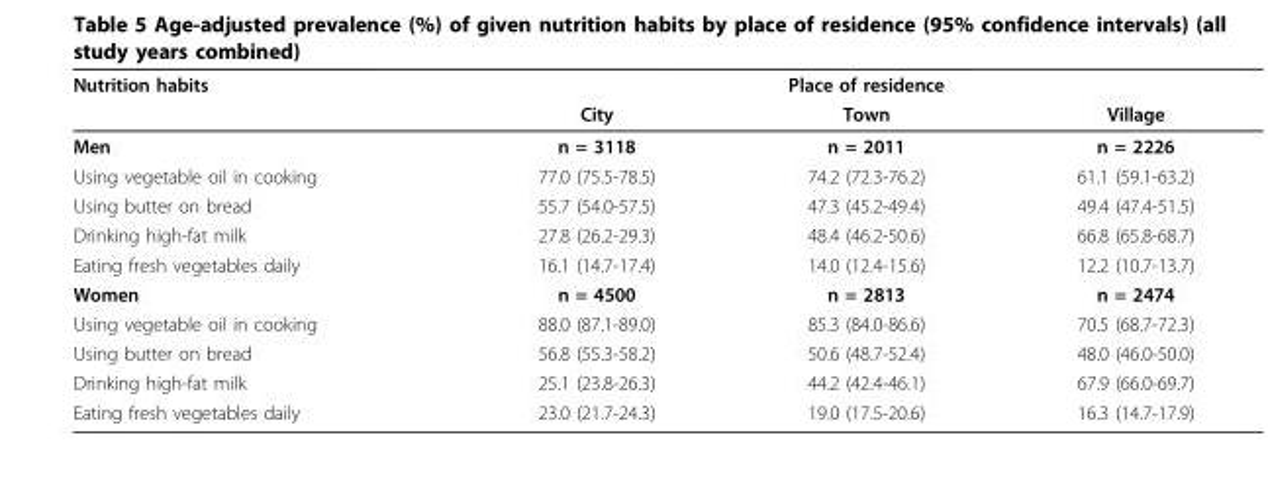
<table><thead><tr><td rowspan="2">Nutrition habits</td><td colspan="3">Place of residence</td></tr><tr><td>City</td><td>Town</td><td>Village</td></tr></thead><tbody><tr><td>Men</td><td>n = 3118</td><td>n = 2011</td><td>n = 2226</td></tr><tr><td>Using vegetable oil in cooking</td><td>77.0 (75.5-78.5)</td><td>74.2 (72.3-76.2)</td><td>61.1 (59.1-63.2)</td></tr><tr><td>Using butter on bread</td><td>55.7 (54.0-57.5)</td><td>47.3 (45.2-49.4)</td><td>49.4 (47.4-51.5)</td></tr><tr><td>Drinking high-fat milk</td><td>27.8 (26.2-29.3)</td><td>48.4 (46.2-50.6)</td><td>66.8 (65.8-68.7)</td></tr><tr><td>Eating fresh vegetables daily</td><td>16.1 (14.7-17.4)</td><td>14.0 (12.4-15.6)</td><td>12.2 (10.7-13.7)</td></tr><tr><td>Women</td><td>n = 4500</td><td>n = 2813</td><td>n = 2474</td></tr><tr><td>Using vegetable oil in cooking</td><td>88.0 (87.1-89.0)</td><td>85.3 (84.0-86.6)</td><td>70.5 (68.7-72.3)</td></tr><tr><td>Using butter on bread</td><td>56.8 (55.3-58.2)</td><td>50.6 (48.7-52.4)</td><td>48.0 (46.0-50.0)</td></tr><tr><td>Drinking high-fat milk</td><td>25.1 (23.8-26.3)</td><td>44.2 (42.4-46.1)</td><td>67.9 (66.0-69.7)</td></tr><tr><td>Eating fresh vegetables daily</td><td>23.0 (21.7-24.3)</td><td>19.0 (17.5-20.6)</td><td>16.3 (14.7-17.9)</td></tr></tbody></table>